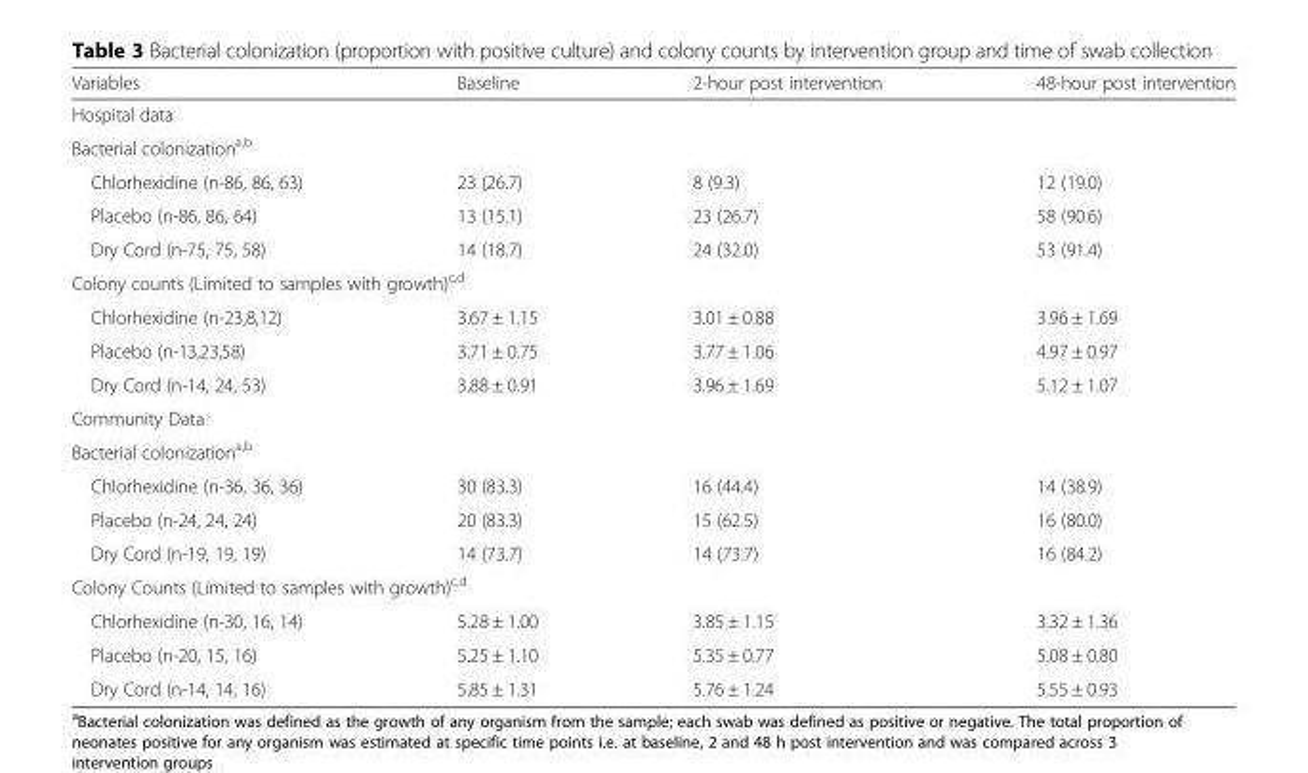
<table><thead><tr><td>Variables</td><td>Baseline</td><td>2-hour post intervention</td><td>48-hour post intervention</td></tr></thead><tbody><tr><td colspan="4">Hospital data</td></tr><tr><td colspan="4">Bacterial colonization<sup>a,b</sup></td></tr><tr><td>Chlorhexidine (n-86, 86, 63)</td><td>23 (26.7)</td><td>8 (9.3)</td><td>12 (19.0)</td></tr><tr><td>Placebo (n-86, 86, 64)</td><td>13 (15.1)</td><td>23 (26.7)</td><td>58 (90.6)</td></tr><tr><td>Dry Cord (n-75, 75, 58)</td><td>14 (18.7)</td><td>24 (32.0)</td><td>53 (91.4)</td></tr><tr><td colspan="4">Colony counts (Limited to samples with growth)<sup>c,d</sup></td></tr><tr><td>Chlorhexidine (n-23,8,12)</td><td>3.67 ± 1.15</td><td>3.01 ± 0.88</td><td>3.96 ± 1.69</td></tr><tr><td>Placebo (n-13,23,58)</td><td>3.71 ± 0.75</td><td>3.77 ± 1.06</td><td>4.97 ± 0.97</td></tr><tr><td>Dry Cord (n-14, 24, 53)</td><td>3.88 ± 0.91</td><td>3.96 ± 1.69</td><td>5.12 ± 1.07</td></tr><tr><td colspan="4">Community Data</td></tr><tr><td colspan="4">Bacterial colonization<sup>a,b</sup></td></tr><tr><td>Chlorhexidine (n-36, 36, 36)</td><td>30 (83.3)</td><td>16 (44.4)</td><td>14 (38.9)</td></tr><tr><td>Placebo (n-24, 24, 24)</td><td>20 (83.3)</td><td>15 (62.5)</td><td>16 (80.0)</td></tr><tr><td>Dry Cord (n-19, 19, 19)</td><td>14 (73.7)</td><td>14 (73.7)</td><td>16 (84.2)</td></tr><tr><td colspan="4">Colony Counts (Limited to samples with growth)<sup>c,d</sup></td></tr><tr><td>Chlorhexidine (n-30, 16, 14)</td><td>5.28 ± 1.00</td><td>3.85 ± 1.15</td><td>3.32 ± 1.36</td></tr><tr><td>Placebo (n-20, 15, 16)</td><td>5.25 ± 1.10</td><td>5.35 ± 0.77</td><td>5.08 ± 0.80</td></tr><tr><td>Dry Cord (n-14, 14, 16)</td><td>5.85 ± 1.31</td><td>5.76 ± 1.24</td><td>5.55 ± 0.93</td></tr></tbody></table>